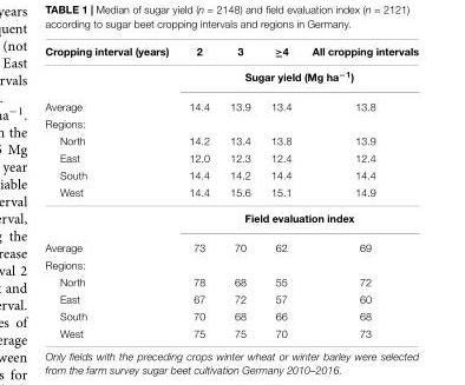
<table><thead><tr><td>Cropping interval (years)</td><td>2</td><td>3</td><td>≥4</td><td>All cropping intervals</td></tr></thead><tbody><tr><td></td><td colspan="4">Sugar yield (Mg ha<sup>−1</sup>)</td></tr><tr><td>Average</td><td>14.4</td><td>13.9</td><td>13.4</td><td>13.8</td></tr><tr><td colspan="5">Regions:</td></tr><tr><td>North</td><td>14.2</td><td>13.4</td><td>13.8</td><td>13.9</td></tr><tr><td>East</td><td>12.0</td><td>12.3</td><td>12.4</td><td>12.4</td></tr><tr><td>South</td><td>14.4</td><td>14.2</td><td>14.4</td><td>14.4</td></tr><tr><td rowspan="2">West</td><td>14.4</td><td>15.6</td><td>15.1</td><td>14.9</td></tr><tr><td colspan="4">Field evaluation index</td></tr><tr><td>Average</td><td>73</td><td>70</td><td>62</td><td>69</td></tr><tr><td colspan="5">Regions:</td></tr><tr><td>North</td><td>78</td><td>68</td><td>55</td><td>72</td></tr><tr><td>East</td><td>67</td><td>72</td><td>57</td><td>60</td></tr><tr><td>South</td><td>70</td><td>68</td><td>66</td><td>68</td></tr><tr><td>West</td><td>75</td><td>75</td><td>70</td><td>73</td></tr></tbody></table>